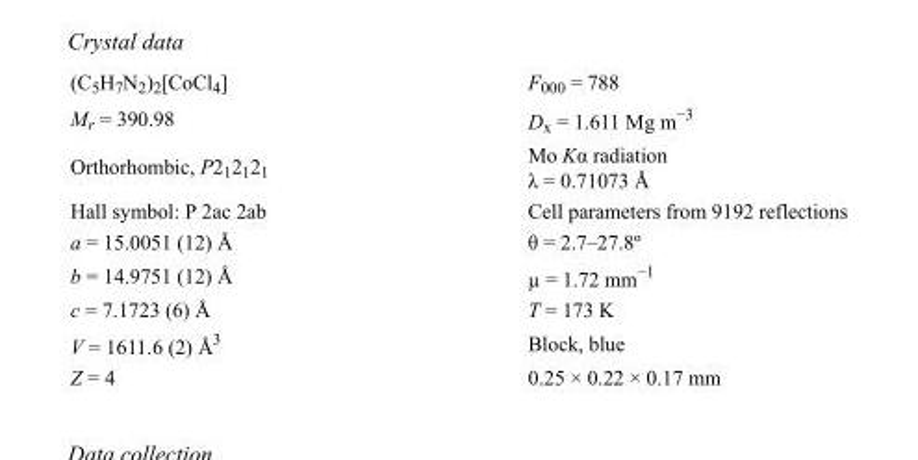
<table><tbody><tr><td>(C<sub>5</sub>H<sub>7</sub>N<sub>2</sub>)<sub>2</sub>[CoCl<sub>4</sub>]</td><td>F000 = 788</td></tr><tr><td>M<sub>r</sub> = 390.98</td><td>D<sub>x</sub> = 1.611 Mg m<sup>−3</sup></td></tr><tr><td>Orthorhombic, P2<sub>1</sub>2<sub>1</sub>2<sub>1</sub></td><td>Mo Kα radiation λ = 0.71073 Å</td></tr><tr><td>Hall symbol: P 2ac 2ab</td><td>Cell parameters from 9192 reflections</td></tr><tr><td>a = 15.0051 (12) Å</td><td>θ = 2.7–27.8º</td></tr><tr><td>b = 14.9751 (12) Å</td><td>µ = 1.72 mm<sup>−1</sup></td></tr><tr><td>c = 7.1723 (6) Å</td><td>T = 173 K</td></tr><tr><td>V = 1611.6 (2) Å<sup>3</sup></td><td>Block, blue</td></tr><tr><td>Z = 4</td><td>0.25 × 0.22 × 0.17 mm</td></tr></tbody></table>